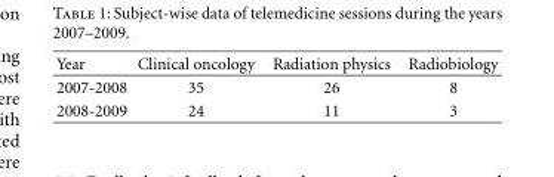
<table><thead><tr><td>Year</td><td>Clinical oncology</td><td>Radiation physics</td><td>Radiobiology</td></tr></thead><tbody><tr><td>2007-2008</td><td>35</td><td>26</td><td>8</td></tr><tr><td>2008-2009</td><td>24</td><td>11</td><td>3</td></tr></tbody></table>